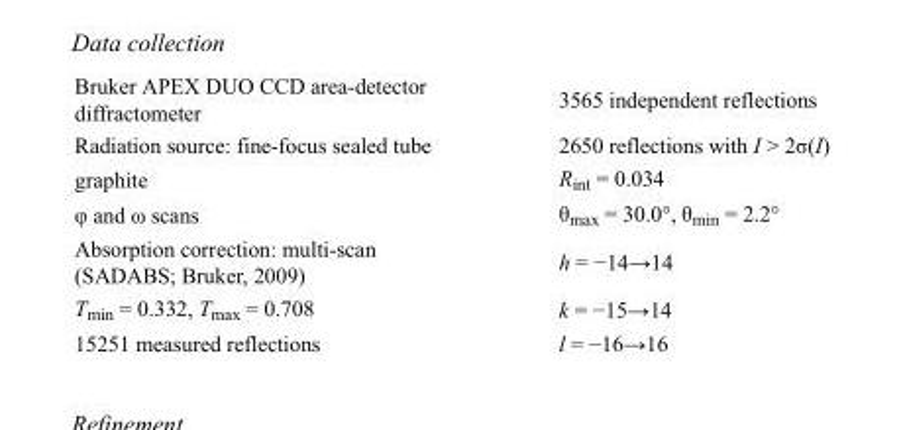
<table><tbody><tr><td>Bruker APEX DUO CCD area-detector diffractometer</td><td>3565 independent reflections</td></tr><tr><td>Radiation source: fine-focus sealed tube</td><td>2650 reflections with I &gt; 2σ(I)</td></tr><tr><td>graphite</td><td>R<sub>int</sub> = 0.034</td></tr><tr><td>φ and ω scans</td><td>θ<sub>max</sub> = 30.0°, θ<sub>min</sub> = 2.2°</td></tr><tr><td>Absorption correction: multi-scan (SADABS; Bruker, 2009)</td><td>h = −14→14</td></tr><tr><td>T<sub>min</sub> = 0.332, T<sub>max</sub> = 0.708</td><td>k = −15→14</td></tr><tr><td>15251 measured reflections</td><td>l = −16→16</td></tr></tbody></table>